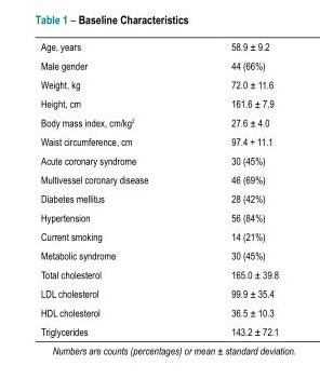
<table><tbody><tr><td>Age, years</td><td>58.9 ± 9.2</td></tr><tr><td>Male gender</td><td>44 (66%)</td></tr><tr><td>Weight, kg</td><td>72.0 ± 11.6</td></tr><tr><td>Height, cm</td><td>161.6 ± 7.9</td></tr><tr><td>Body mass index, cm/kg<sup>2</sup></td><td>27.6 ± 4.0</td></tr><tr><td>Waist circumference, cm</td><td>97.4 + 11.1</td></tr><tr><td>Acute coronary syndrome</td><td>30 (45%)</td></tr><tr><td>Multivessel coronary disease</td><td>46 (69%)</td></tr><tr><td>Diabetes mellitus</td><td>28 (42%)</td></tr><tr><td>Hypertension</td><td>56 (84%)</td></tr><tr><td>Current smoking</td><td>14 (21%)</td></tr><tr><td>Metabolic syndrome</td><td>30 (45%)</td></tr><tr><td>Total cholesterol</td><td>165.0 ± 39.8</td></tr><tr><td>LDL cholesterol</td><td>99.9 ± 35.4</td></tr><tr><td>HDL cholesterol</td><td>36.5 ± 10.3</td></tr><tr><td>Triglycerides</td><td>143.2 ± 72.1</td></tr></tbody></table>